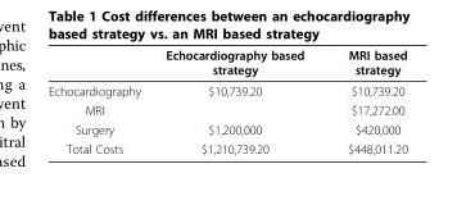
<table><thead><tr><td></td><td>Echocardiography based strategy</td><td>MRI based strategy</td></tr></thead><tbody><tr><td>Echocardiography</td><td>$10,739.20</td><td>$10,739.20</td></tr><tr><td>MRI</td><td></td><td>$17,272.00</td></tr><tr><td>Surgery</td><td>$1,200,000</td><td>$420,000</td></tr><tr><td>Total Costs</td><td>$1,210,739.20</td><td>$448,011.20</td></tr></tbody></table>